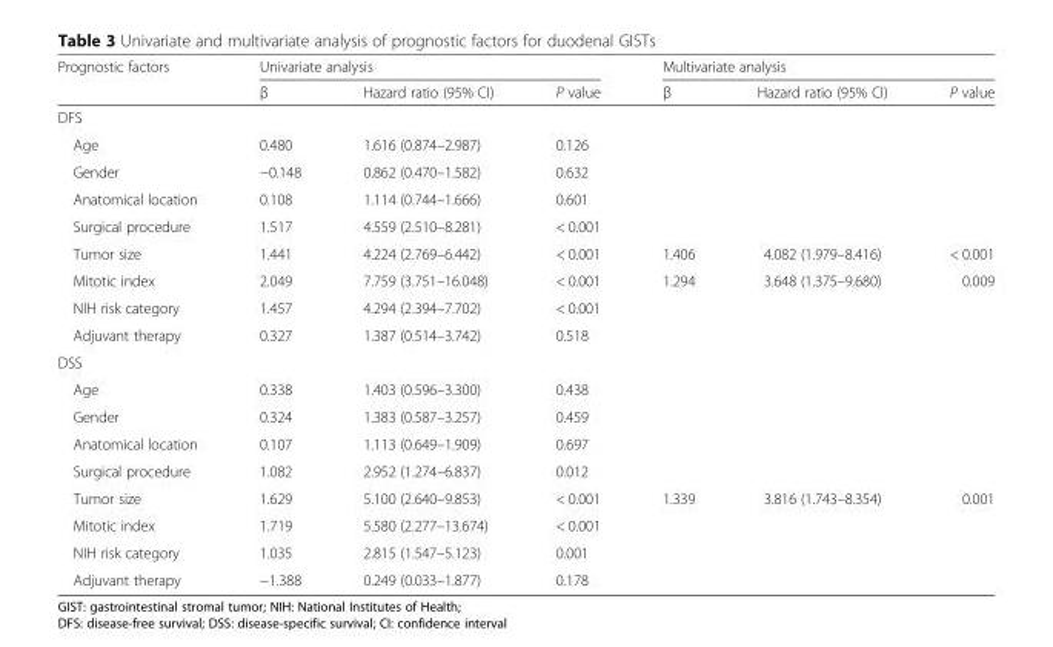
<table><thead><tr><td rowspan="2">Prognostic factors</td><td colspan="3">Univariate analysis</td><td colspan="3">Multivariate analysis</td></tr><tr><td>β</td><td>Hazard ratio (95% CI)</td><td>P value</td><td>β</td><td>Hazard ratio (95% CI)</td><td>P value</td></tr></thead><tbody><tr><td colspan="7">DFS</td></tr><tr><td>Age</td><td>0.480</td><td>1.616 (0.874–2.987)</td><td>0.126</td><td></td><td></td><td></td></tr><tr><td>Gender</td><td>−0.148</td><td>0.862 (0.470–1.582)</td><td>0.632</td><td></td><td></td><td></td></tr><tr><td>Anatomical location</td><td>0.108</td><td>1.114 (0.744–1.666)</td><td>0.601</td><td></td><td></td><td></td></tr><tr><td>Surgical procedure</td><td>1.517</td><td>4.559 (2.510–8.281)</td><td>&lt; 0.001</td><td></td><td></td><td></td></tr><tr><td>Tumor size</td><td>1.441</td><td>4.224 (2.769–6.442)</td><td>&lt; 0.001</td><td>1.406</td><td>4.082 (1.979–8.416)</td><td>&lt; 0.001</td></tr><tr><td>Mitotic index</td><td>2.049</td><td>7.759 (3.751–16.048)</td><td>&lt; 0.001</td><td>1.294</td><td>3.648 (1.375–9.680)</td><td>0.009</td></tr><tr><td>NIH risk category</td><td>1.457</td><td>4.294 (2.394–7.702)</td><td>&lt; 0.001</td><td></td><td></td><td></td></tr><tr><td>Adjuvant therapy</td><td>0.327</td><td>1.387 (0.514–3.742)</td><td>0.518</td><td></td><td></td><td></td></tr><tr><td colspan="7">DSS</td></tr><tr><td>Age</td><td>0.338</td><td>1.403 (0.596–3.300)</td><td>0.438</td><td></td><td></td><td></td></tr><tr><td>Gender</td><td>0.324</td><td>1.383 (0.587–3.257)</td><td>0.459</td><td></td><td></td><td></td></tr><tr><td>Anatomical location</td><td>0.107</td><td>1.113 (0.649–1.909)</td><td>0.697</td><td></td><td></td><td></td></tr><tr><td>Surgical procedure</td><td>1.082</td><td>2.952 (1.274–6.837)</td><td>0.012</td><td></td><td></td><td></td></tr><tr><td>Tumor size</td><td>1.629</td><td>5.100 (2.640–9.853)</td><td>&lt; 0.001</td><td>1.339</td><td>3.816 (1.743–8.354)</td><td>0.001</td></tr><tr><td>Mitotic index</td><td>1.719</td><td>5.580 (2.277–13.674)</td><td>&lt; 0.001</td><td></td><td></td><td></td></tr><tr><td>NIH risk category</td><td>1.035</td><td>2.815 (1.547–5.123)</td><td>0.001</td><td></td><td></td><td></td></tr><tr><td>Adjuvant therapy</td><td>−1.388</td><td>0.249 (0.033–1.877)</td><td>0.178</td><td></td><td></td><td></td></tr></tbody></table>